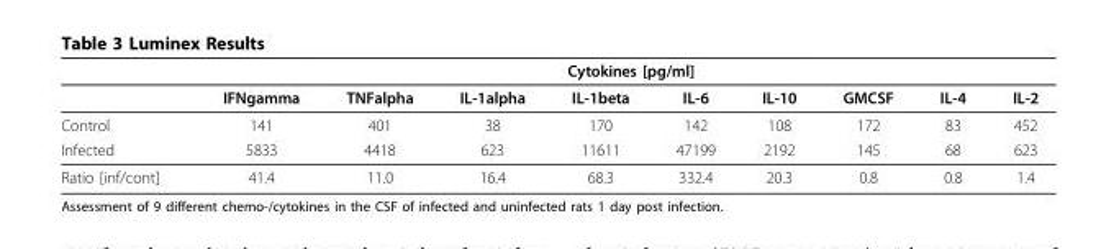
<table><thead><tr><td rowspan="2"></td><td colspan="9">Cytokines [pg/ml]</td></tr><tr><td>IFNgamma</td><td>TNFalpha</td><td>IL-1alpha</td><td>IL-1beta</td><td>IL-6</td><td>IL-10</td><td>GMCSF</td><td>IL-4</td><td>IL-2</td></tr></thead><tbody><tr><td>Control</td><td>141</td><td>401</td><td>38</td><td>170</td><td>142</td><td>108</td><td>172</td><td>83</td><td>452</td></tr><tr><td>Infected</td><td>5833</td><td>4418</td><td>623</td><td>11611</td><td>47199</td><td>2192</td><td>145</td><td>68</td><td>623</td></tr><tr><td>Ratio [inf/cont]</td><td>41.4</td><td>11.0</td><td>16.4</td><td>68.3</td><td>332.4</td><td>20.3</td><td>0.8</td><td>0.8</td><td>1.4</td></tr></tbody></table>